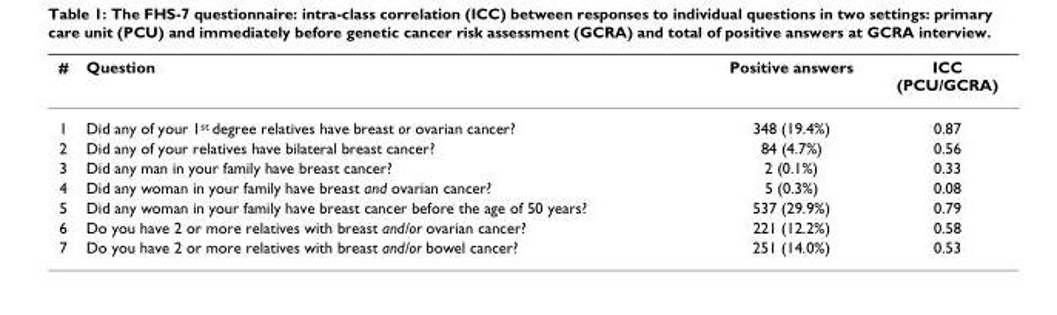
<table><thead><tr><td>#</td><td>Question</td><td>Positive answers</td><td>ICC (PCU/GCRA)</td></tr></thead><tbody><tr><td>1</td><td>Did any of your 1<sup>st</sup> degree relatives have breast or ovarian cancer?</td><td>348 (19.4%)</td><td>0.87</td></tr><tr><td>2</td><td>Did any of your relatives have bilateral breast cancer?</td><td>84 (4.7%)</td><td>0.56</td></tr><tr><td>3</td><td>Did any man in your family have breast cancer?</td><td>2 (0.1%)</td><td>0.33</td></tr><tr><td>4</td><td>Did any woman in your family have breast and ovarian cancer?</td><td>5 (0.3%)</td><td>0.08</td></tr><tr><td>5</td><td>Did any woman in your family have breast cancer before the age of 50 years?</td><td>537 (29.9%)</td><td>0.79</td></tr><tr><td>6</td><td>Do you have 2 or more relatives with breast and/or ovarian cancer?</td><td>221 (12.2%)</td><td>0.58</td></tr><tr><td>7</td><td>Do you have 2 or more relatives with breast and/or bowel cancer?</td><td>251 (14.0%)</td><td>0.53</td></tr></tbody></table>